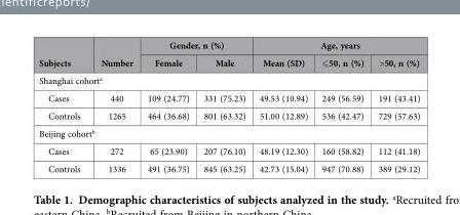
<table><thead><tr><td rowspan="2">Subjects</td><td rowspan="2">Number</td><td colspan="2">Gender, n (%)</td><td colspan="3">Age, years</td></tr><tr><td>Female</td><td>Male</td><td>Mean (SD)</td><td>≤50, n (%)</td><td>&gt;50, n (%)</td></tr></thead><tbody><tr><td colspan="7">Shanghai cohort<sup>a</sup></td></tr><tr><td>Cases</td><td>440</td><td>109 (24.77)</td><td>331 (75.23)</td><td>49.53 (10.94)</td><td>249 (56.59)</td><td>191 (43.41)</td></tr><tr><td>Controls</td><td>1265</td><td>464 (36.68)</td><td>801 (63.32)</td><td>51.00 (12.89)</td><td>536 (42.47)</td><td>729 (57.63)</td></tr><tr><td colspan="7">Beijing cohort<sup>b</sup></td></tr><tr><td>Cases</td><td>272</td><td>65 (23.90)</td><td>207 (76.10)</td><td>48.19 (12.30)</td><td>160 (58.82)</td><td>112 (41.18)</td></tr><tr><td>Controls</td><td>1336</td><td>491 (36.75)</td><td>845 (63.25)</td><td>42.73 (15.04)</td><td>947 (70.88)</td><td>389 (29.12)</td></tr></tbody></table>